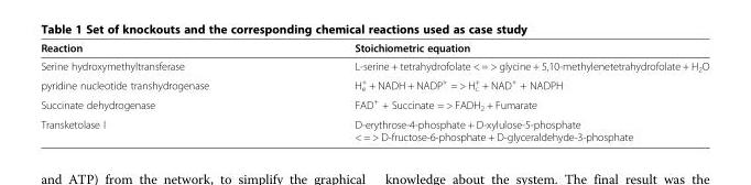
<table><thead><tr><td>Reaction</td><td>Stoichiometric equation</td></tr></thead><tbody><tr><td>Serine hydroxymethyltransferase</td><td>L-serine + tetrahydrofolate &lt; = &gt; glycine + 5,10-methylenetetrahydrofolate + H<sub>2</sub>O</td></tr><tr><td>pyridine nucleotide transhydrogenase</td><td>H<sup>+</sup> <sub>e</sub> + NADH + NADP<sup>+</sup> = &gt; H<sup>+</sup> <sub>c</sub> + NAD<sup>+</sup> + NADPH</td></tr><tr><td>Succinate dehydrogenase</td><td>FAD<sup>+</sup> + Succinate = &gt; FADH<sub>2</sub> + Fumarate</td></tr><tr><td>Transketolase I</td><td>D-erythrose-4-phosphate + D-xylulose-5-phosphate &lt; = &gt; D-fructose-6-phosphate + D-glyceraldehyde-3-phosphate</td></tr></tbody></table>